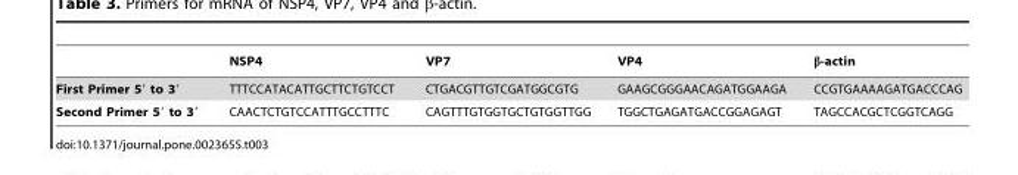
<table><thead><tr><td></td><td>NSP4</td><td>VP7</td><td>VP4</td><td>β-actin</td></tr></thead><tbody><tr><td>First Primer 5′ to 3′</td><td>TTTCCATACATTGCTTCTGTCCT</td><td>CTGACGTTGTCGATGGCGTG</td><td>GAAGCGGGAACAGATGGAAGA</td><td>CCGTGAAAAGATGACCCAG</td></tr><tr><td>Second Primer 5′ to 3′</td><td>CAACTCTGTCCATTTGCCTTTC</td><td>CAGTTTGTGGTGCTGTGGTTGG</td><td>TGGCTGAGATGACCGGAGAGT</td><td>TAGCCACGCTCGGTCAGG</td></tr></tbody></table>